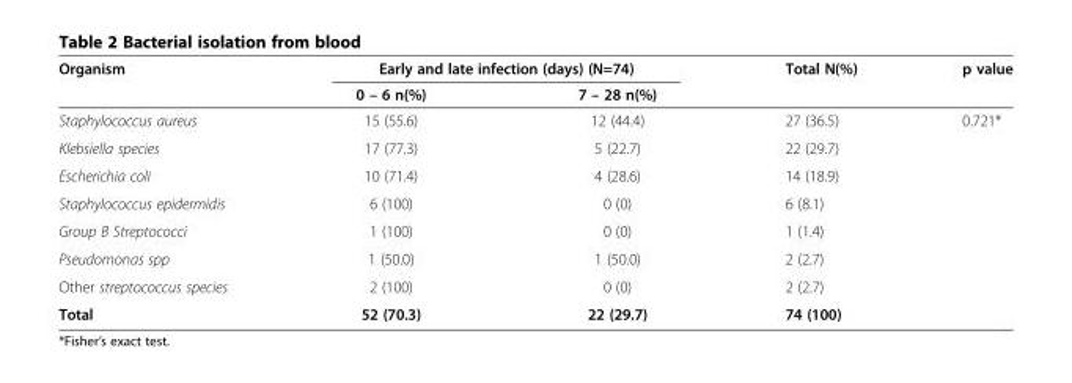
<table><thead><tr><td rowspan="2">Organism</td><td colspan="2">Early and late infection (days) (N=74)</td><td rowspan="2">Total N(%)</td><td rowspan="2">p value</td></tr><tr><td>0 – 6 n(%)</td><td>7 – 28 n(%)</td></tr></thead><tbody><tr><td>Staphylococcus aureus</td><td>15 (55.6)</td><td>12 (44.4)</td><td>27 (36.5)</td><td>0.721*</td></tr><tr><td>Klebsiella species</td><td>17 (77.3)</td><td>5 (22.7)</td><td>22 (29.7)</td><td></td></tr><tr><td>Escherichia coli</td><td>10 (71.4)</td><td>4 (28.6)</td><td>14 (18.9)</td><td></td></tr><tr><td>Staphylococcus epidermidis</td><td>6 (100)</td><td>0 (0)</td><td>6 (8.1)</td><td></td></tr><tr><td>Group B Streptococci</td><td>1 (100)</td><td>0 (0)</td><td>1 (1.4)</td><td></td></tr><tr><td>Pseudomonas spp</td><td>1 (50.0)</td><td>1 (50.0)</td><td>2 (2.7)</td><td></td></tr><tr><td>Other streptococcus species</td><td>2 (100)</td><td>0 (0)</td><td>2 (2.7)</td><td></td></tr><tr><td>Total</td><td>52 (70.3)</td><td>22 (29.7)</td><td>74 (100)</td><td></td></tr></tbody></table>